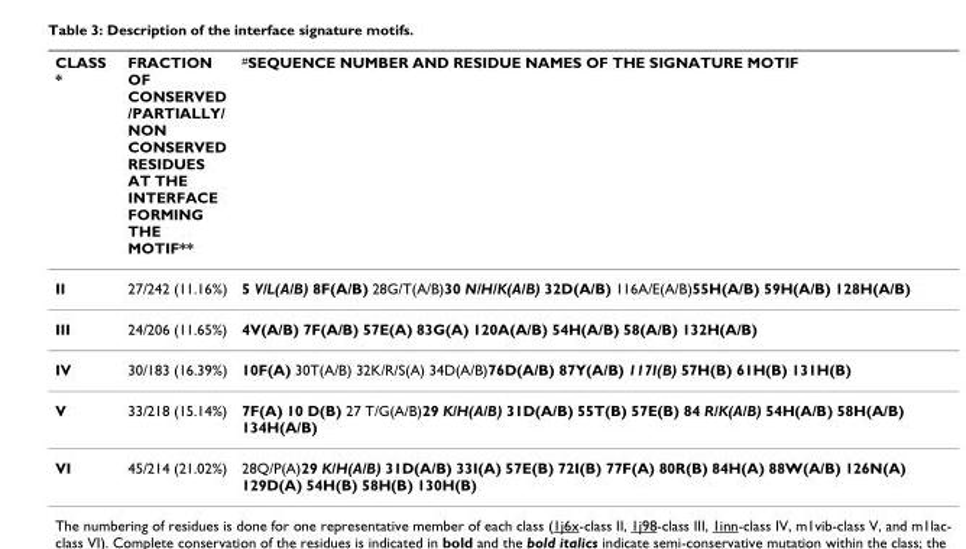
<table><thead><tr><td>CLASS *</td><td>FRACTION OF CONSERVED /PARTIALLY/ NON CONSERVED RESIDUES AT THE INTERFACE FORMING THE MOTIF**</td><td><sup>#</sup>SEQUENCE NUMBER AND RESIDUE NAMES OF THE SIGNATURE MOTIF</td></tr></thead><tbody><tr><td>II</td><td>27/242 (11.16%)</td><td>5 V/L(A/B) 8F(A/B) 28G/T(A/B)30 N/H/K(A/B) 32D(A/B) 116A/E(A/B)55H(A/B) 59H(A/B) 128H(A/B)</td></tr><tr><td>III</td><td>24/206 (11.65%)</td><td>4V(A/B) 7F(A/B) 57E(A) 83G(A) 120A(A/B) 54H(A/B) 58(A/B) 132H(A/B)</td></tr><tr><td>IV</td><td>30/183 (16.39%)</td><td>10F(A) 30T(A/B) 32K/R/S(A) 34D(A/B)76D(A/B) 87Y(A/B) 117I(B) 57H(B) 61H(B) 131H(B)</td></tr><tr><td>V</td><td>33/218 (15.14%)</td><td>7F(A) 10 D(B) 27 T/G(A/B)29 K/H(A/B) 31D(A/B) 55T(B) 57E(B) 84 R/K(A/B) 54H(A/B) 58H(A/B) 134H(A/B)</td></tr><tr><td>VI</td><td>45/214 (21.02%)</td><td>28Q/P(A)29 K/H(A/B) 31D(A/B) 33I(A) 57E(B) 72I(B) 77F(A) 80R(B) 84H(A) 88W(A/B) 126N(A) 129D(A) 54H(B) 58H(B) 130H(B)</td></tr></tbody></table>